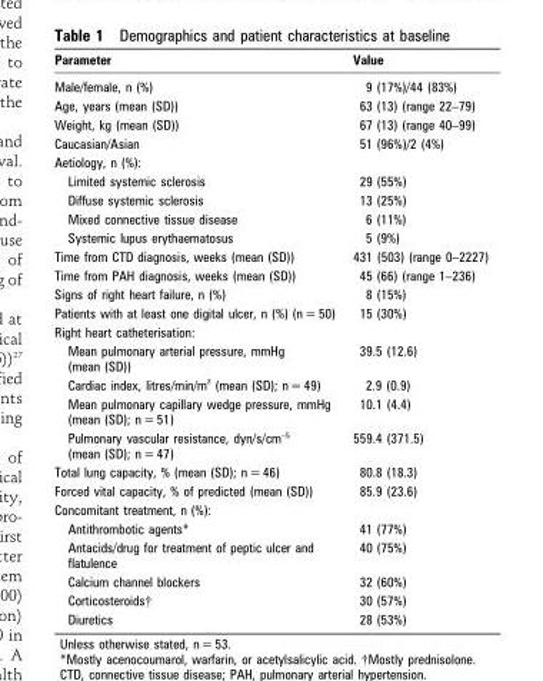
<table><thead><tr><td>Parameter</td><td>Value</td></tr></thead><tbody><tr><td>Male/female, n (%)</td><td>9 (17%)/44 (83%)</td></tr><tr><td>Age, years (mean (SD))</td><td>63 (13) (range 22–79)</td></tr><tr><td>Weight, kg (mean (SD))</td><td>67 (13) (range 40–99)</td></tr><tr><td>Caucasian/Asian</td><td>51 (96%)/2 (4%)</td></tr><tr><td colspan="2">Aetiology, n (%):</td></tr><tr><td>Limited systemic sclerosis</td><td>29 (55%)</td></tr><tr><td>Diffuse systemic sclerosis</td><td>13 (25%)</td></tr><tr><td>Mixed connective tissue disease</td><td>6 (11%)</td></tr><tr><td>Systemic lupus erythaematosus</td><td>5 (9%)</td></tr><tr><td>Time from CTD diagnosis, weeks (mean (SD))</td><td>431 (503) (range 0–2227)</td></tr><tr><td>Time from PAH diagnosis, weeks (mean (SD))</td><td>45 (66) (range 1–236)</td></tr><tr><td>Signs of right heart failure, n (%)</td><td>8 (15%)</td></tr><tr><td>Patients with at least one digital ulcer, n (%) (n = 50)</td><td>15 (30%)</td></tr><tr><td colspan="2">Right heart catheterisation:</td></tr><tr><td>Mean pulmonary arterial pressure, mmHg (mean (SD))</td><td>39.5 (12.6)</td></tr><tr><td>Cardiac index, litres/min/m <sup>2</sup> (mean (SD); n = 49)</td><td>2.9 (0.9)</td></tr><tr><td>Mean pulmonary capillary wedge pressure, mmHg (mean (SD); n = 51)</td><td>10.1 (4.4)</td></tr><tr><td>Pulmonary vascular resistance, dyn/s/cm<sup>–5</sup> (mean (SD); n = 47)</td><td>559.4 (371.5)</td></tr><tr><td>Total lung capacity, % (mean (SD); n = 46)</td><td>80.8 (18.3)</td></tr><tr><td>Forced vital capacity, % of predicted (mean (SD))</td><td>85.9 (23.6)</td></tr><tr><td colspan="2">Concomitant treatment, n (%):</td></tr><tr><td>Antithrombotic agents*</td><td>41 (77%)</td></tr><tr><td>Antacids/drug for treatment of peptic ulcer and flatulence</td><td>40 (75%)</td></tr><tr><td>Calcium channel blockers</td><td>32 (60%)</td></tr><tr><td>Corticosteroids†</td><td>30 (57%)</td></tr><tr><td>Diuretics</td><td>28 (53%)</td></tr></tbody></table>